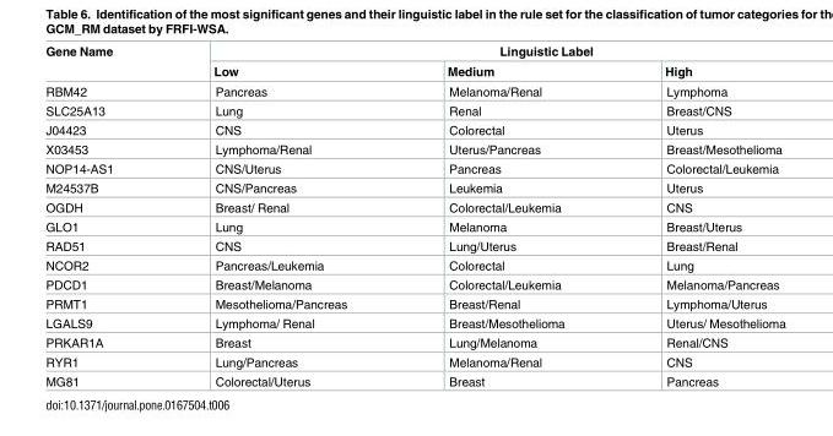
<table><thead><tr><td rowspan="2">Gene Name</td><td colspan="3">Linguistic Label</td></tr><tr><td>Low</td><td>Medium</td><td>High</td></tr></thead><tbody><tr><td>RBM42</td><td>Pancreas</td><td>Melanoma/Renal</td><td>Lymphoma</td></tr><tr><td>SLC25A13</td><td>Lung</td><td>Renal</td><td>Breast/CNS</td></tr><tr><td>J04423</td><td>CNS</td><td>Colorectal</td><td>Uterus</td></tr><tr><td>X03453</td><td>Lymphoma/Renal</td><td>Uterus/Pancreas</td><td>Breast/Mesothelioma</td></tr><tr><td>NOP14-AS1</td><td>CNS/Uterus</td><td>Pancreas</td><td>Colorectal/Leukemia</td></tr><tr><td>M24537B</td><td>CNS/Pancreas</td><td>Leukemia</td><td>Uterus</td></tr><tr><td>OGDH</td><td>Breast/ Renal</td><td>Colorectal/Leukemia</td><td>CNS</td></tr><tr><td>GLO1</td><td>Lung</td><td>Melanoma</td><td>Breast/Uterus</td></tr><tr><td>RAD51</td><td>CNS</td><td>Lung/Uterus</td><td>Breast/Renal</td></tr><tr><td>NCOR2</td><td>Pancreas/Leukemia</td><td>Colorectal</td><td>Lung</td></tr><tr><td>PDCD1</td><td>Breast/Melanoma</td><td>Colorectal/Leukemia</td><td>Melanoma/Pancreas</td></tr><tr><td>PRMT1</td><td>Mesothelioma/Pancreas</td><td>Breast/Renal</td><td>Lymphoma/Uterus</td></tr><tr><td>LGALS9</td><td>Lymphoma/ Renal</td><td>Breast/Mesothelioma</td><td>Uterus/ Mesothelioma</td></tr><tr><td>PRKAR1A</td><td>Breast</td><td>Lung/Melanoma</td><td>Renal/CNS</td></tr><tr><td>RYR1</td><td>Lung/Pancreas</td><td>Melanoma/Renal</td><td>CNS</td></tr><tr><td>MG81</td><td>Colorectal/Uterus</td><td>Breast</td><td>Pancreas</td></tr></tbody></table>